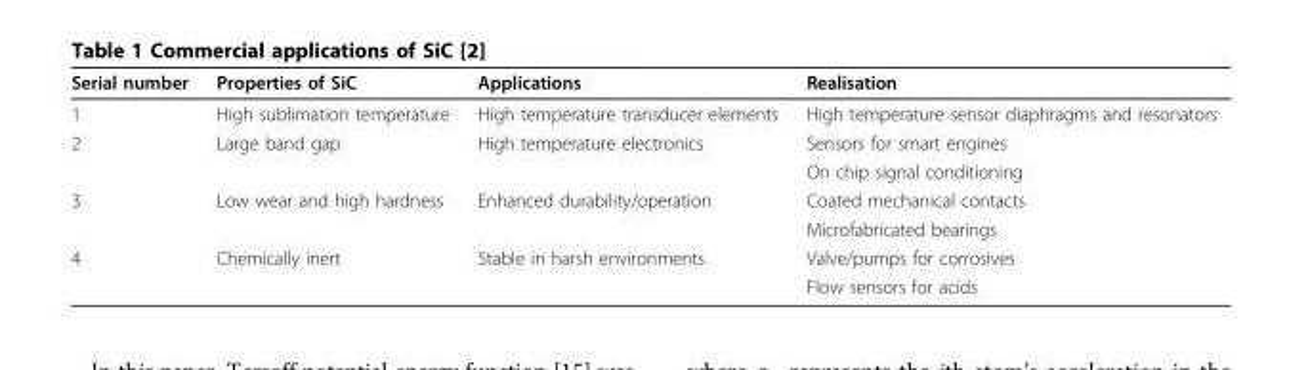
<table><thead><tr><td>Serial number</td><td>Properties of SiC</td><td>Applications</td><td>Realisation</td></tr></thead><tbody><tr><td>1</td><td>High sublimation temperature</td><td>High temperature transducer elements</td><td>High temperature sensor diaphragms and resonators</td></tr><tr><td rowspan="2">2</td><td>Large band gap</td><td>High temperature electronics</td><td>Sensors for smart engines</td></tr><tr><td></td><td></td><td>On chip signal conditioning</td></tr><tr><td rowspan="2">3</td><td>Low wear and high hardness</td><td>Enhanced durability/operation</td><td>Coated mechanical contacts</td></tr><tr><td></td><td></td><td>Microfabricated bearings</td></tr><tr><td rowspan="2">4</td><td>Chemically inert</td><td>Stable in harsh environments</td><td>Valve/pumps for corrosives</td></tr><tr><td></td><td></td><td>Flow sensors for acids</td></tr></tbody></table>